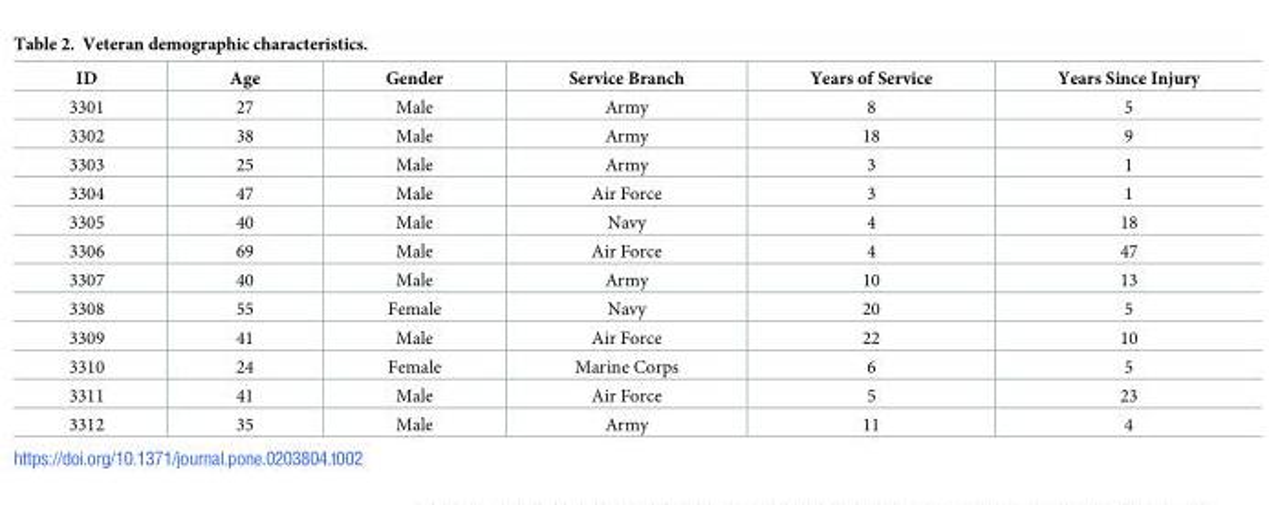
<table><thead><tr><td>ID</td><td>Age</td><td>Gender</td><td>Service Branch</td><td>Years of Service</td><td>Years Since Injury</td></tr></thead><tbody><tr><td>3301</td><td>27</td><td>Male</td><td>Army</td><td>8</td><td>5</td></tr><tr><td>3302</td><td>38</td><td>Male</td><td>Army</td><td>18</td><td>9</td></tr><tr><td>3303</td><td>25</td><td>Male</td><td>Army</td><td>3</td><td>1</td></tr><tr><td>3304</td><td>47</td><td>Male</td><td>Air Force</td><td>3</td><td>1</td></tr><tr><td>3305</td><td>40</td><td>Male</td><td>Navy</td><td>4</td><td>18</td></tr><tr><td>3306</td><td>69</td><td>Male</td><td>Air Force</td><td>4</td><td>47</td></tr><tr><td>3307</td><td>40</td><td>Male</td><td>Army</td><td>10</td><td>13</td></tr><tr><td>3308</td><td>55</td><td>Female</td><td>Navy</td><td>20</td><td>5</td></tr><tr><td>3309</td><td>41</td><td>Male</td><td>Air Force</td><td>22</td><td>10</td></tr><tr><td>3310</td><td>24</td><td>Female</td><td>Marine Corps</td><td>6</td><td>5</td></tr><tr><td>3311</td><td>41</td><td>Male</td><td>Air Force</td><td>5</td><td>23</td></tr><tr><td>3312</td><td>35</td><td>Male</td><td>Army</td><td>11</td><td>4</td></tr></tbody></table>